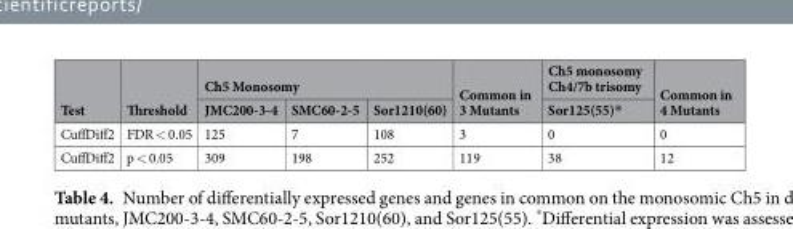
<table><thead><tr><td rowspan="2">Test</td><td rowspan="2">Threshold</td><td colspan="3">Ch5 Monosomy</td><td rowspan="2">Common in 3 Mutants</td><td rowspan="2">Ch5 monosomy Ch4/7b trisomy Sor125(55)*</td><td rowspan="2">Common in 4 Mutants</td></tr><tr><td>JMC200-3-4</td><td>SMC60-2-5</td><td>Sor1210(60)</td></tr></thead><tbody><tr><td>CuffDiff2</td><td>FDR &lt; 0.05</td><td>125</td><td>7</td><td>108</td><td>3</td><td>0</td><td>0</td></tr><tr><td>CuffDiff2</td><td>p &lt; 0.05</td><td>309</td><td>198</td><td>252</td><td>119</td><td>38</td><td>12</td></tr></tbody></table>